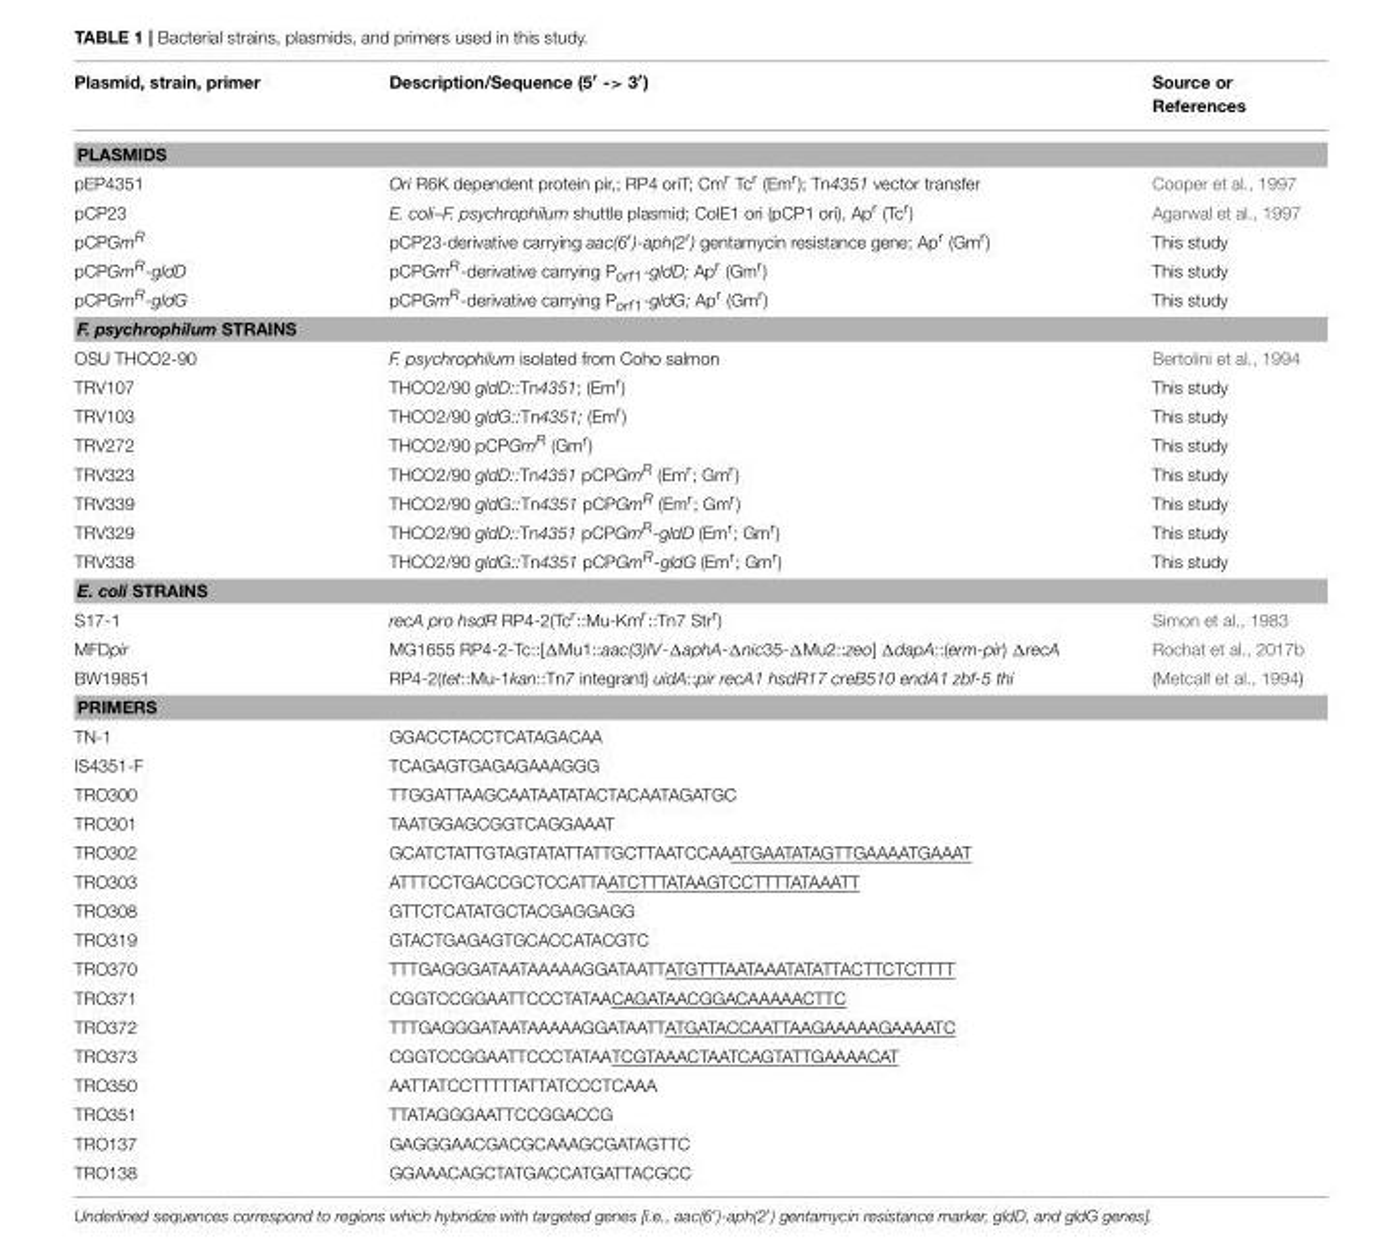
<table><thead><tr><td>Plasmid, strain, primer</td><td>Description/Sequence (5′ -&gt; 3′)</td><td>Source or References</td></tr></thead><tbody><tr><td colspan="3">PLASMIDS</td></tr><tr><td>pEP4351</td><td>Ori R6K dependent protein pir,; RP4 oriT; Cm<sup>r</sup> Tc<sup>r</sup> (Em<sup>r</sup>); Tn4351 vector transfer</td><td>Cooper et al., 1997</td></tr><tr><td>pCP23</td><td>E. coli–F. psychrophilum shuttle plasmid; ColE1 ori (pCP1 ori), Ap<sup>r</sup> (Tc<sup>r</sup>)</td><td>Agarwal et al., 1997</td></tr><tr><td>pCPGmR</td><td>pCP23-derivative carrying aac(6′)-aph(2′) gentamycin resistance gene; Ap<sup>r</sup> (Gm<sup>r</sup>)</td><td>This study</td></tr><tr><td>pCPGmR-gldD</td><td>pCPGmR-derivative carrying Porf1-gldD; Apr (Gmr)</td><td>This study</td></tr><tr><td>pCPGmR-gldG</td><td>pCPGmR-derivative carrying Porf1-gldG; Apr (Gmr)</td><td>This study</td></tr><tr><td colspan="3">F. psychrophilum STRAINS</td></tr><tr><td>OSU THCO2-90</td><td>F. psychrophilum isolated from Coho salmon</td><td>Bertolini et al., 1994</td></tr><tr><td>TRV107</td><td>THCO2/90 gldD::Tn4351; (Em<sup>r</sup>)</td><td>This study</td></tr><tr><td>TRV103</td><td>THCO2/90 gldG::Tn4351; (Em<sup>r</sup>)</td><td>This study</td></tr><tr><td>TRV272</td><td>THCO2/90 pCPGmR (Gmr)</td><td>This study</td></tr><tr><td>TRV323</td><td>THCO2/90 gldD::Tn4351 pCPGmR (Emr; Gmr)</td><td>This study</td></tr><tr><td>TRV339</td><td>THCO2/90 gldG::Tn4351 pCPGmR (Emr; Gmr)</td><td>This study</td></tr><tr><td>TRV329</td><td>THCO2/90 gldD::Tn4351 pCPGmR-gldD (Emr; Gmr)</td><td>This study</td></tr><tr><td>TRV338</td><td>THCO2/90 gldG::Tn4351 pCPGmR-gldG (Emr; Gmr)</td><td>This study</td></tr><tr><td colspan="3">E. coli STRAINS</td></tr><tr><td>S17-1</td><td>recA pro hsdR RP4-2(Tc<sup>r</sup>::Mu-Km<sup>r</sup>::Tn7 Str<sup>r</sup>)</td><td>Simon et al., 1983</td></tr><tr><td>MFDpir</td><td>MG1655 RP4-2-Tc::[ΔMu1::aac(3)IV-ΔaphA-Δnic35-ΔMu2::zeo] ΔdapA::(erm-pir) ΔrecA</td><td>Rochat et al., 2017b</td></tr><tr><td>BW19851</td><td>RP4-2(tet::Mu-1kan::Tn7 integrant) uidA::pir recA1 hsdR17 creB510 endA1 zbf-5 thi</td><td>(Metcalf et al., 1994)</td></tr><tr><td colspan="3">PRIMERS</td></tr><tr><td>TN-1</td><td>GGACCTACCTCATAGACAA</td><td></td></tr><tr><td>IS4351-F</td><td>TCAGAGTGAGAGAAAGGG</td><td></td></tr><tr><td>TRO300</td><td>TTGGATTAAGCAATAATATACTACAATAGATGC</td><td></td></tr><tr><td>TRO301</td><td>TAATGGAGCGGTCAGGAAAT</td><td></td></tr><tr><td>TRO302</td><td>GCATCTATTGTAGTATATTATTGCTTAATCCAAATGAATATAGTTGAAAATGAAAT</td><td></td></tr><tr><td>TRO303</td><td>ATTTCCTGACCGCTCCATTAATCTTTATAAGTCCTTTTATAAATT</td><td></td></tr><tr><td>TRO308</td><td>GTTCTCATATGCTACGAGGAGG</td><td></td></tr><tr><td>TRO319</td><td>GTACTGAGAGTGCACCATACGTC</td><td></td></tr><tr><td>TRO370</td><td>TTTGAGGGATAATAAAAAGGATAATTATGTTTAATAAATATATTACTTCTCTTTT</td><td></td></tr><tr><td>TRO371</td><td>CGGTCCGGAATTCCCTATAACAGATAACGGACAAAAACTTC</td><td></td></tr><tr><td>TRO372</td><td>TTTGAGGGATAATAAAAAGGATAATTATGATACCAATTAAGAAAAAGAAAATC</td><td></td></tr><tr><td>TRO373</td><td>CGGTCCGGAATTCCCTATAATCGTAAACTAATCAGTATTGAAAACAT</td><td></td></tr><tr><td>TRO350</td><td>AATTATCCTTTTTATTATCCCTCAAA</td><td></td></tr><tr><td>TRO351</td><td>TTATAGGGAATTCCGGACCG</td><td></td></tr><tr><td>TRO137</td><td>GAGGGAACGACGCAAAGCGATAGTTC</td><td></td></tr><tr><td>TRO138</td><td>GGAAACAGCTATGACCATGATTACGCC</td><td></td></tr></tbody></table>